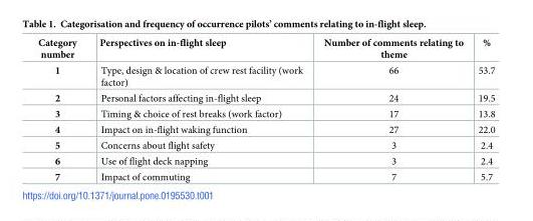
<table><thead><tr><td>Category number</td><td>Perspectives on in-flight sleep</td><td>Number of comments relating to theme</td><td>%</td></tr></thead><tbody><tr><td>1</td><td>Type, design &amp; location of crew rest facility (work factor)</td><td>66</td><td>53.7</td></tr><tr><td>2</td><td>Personal factors affecting in-flight sleep</td><td>24</td><td>19.5</td></tr><tr><td>3</td><td>Timing &amp; choice of rest breaks (work factor)</td><td>17</td><td>13.8</td></tr><tr><td>4</td><td>Impact on in-flight waking function</td><td>27</td><td>22.0</td></tr><tr><td>5</td><td>Concerns about flight safety</td><td>3</td><td>2.4</td></tr><tr><td>6</td><td>Use of flight deck napping</td><td>3</td><td>2.4</td></tr><tr><td>7</td><td>Impact of commuting</td><td>7</td><td>5.7</td></tr></tbody></table>